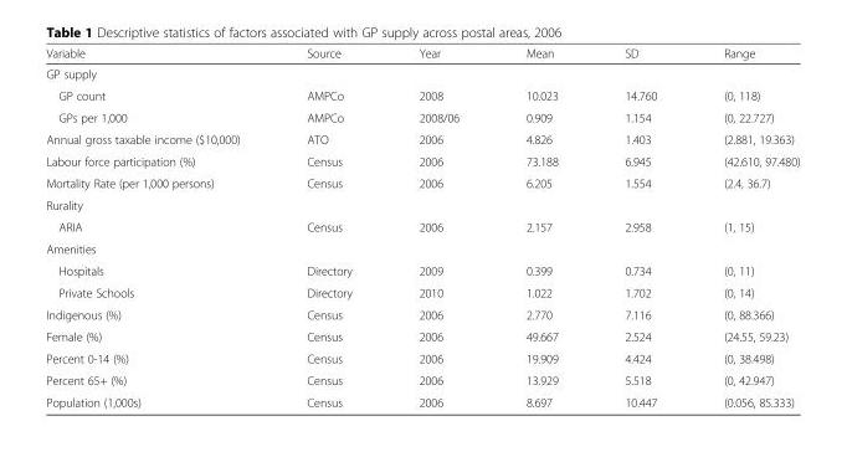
<table><thead><tr><td>Variable</td><td>Source</td><td>Year</td><td>Mean</td><td>SD</td><td>Range</td></tr></thead><tbody><tr><td colspan="6">GP supply</td></tr><tr><td>GP count</td><td>AMPCo</td><td>2008</td><td>10.023</td><td>14.760</td><td>(0, 118)</td></tr><tr><td>GPs per 1,000</td><td>AMPCo</td><td>2008/06</td><td>0.909</td><td>1.154</td><td>(0, 22.727)</td></tr><tr><td>Annual gross taxable income ($10,000)</td><td>ATO</td><td>2006</td><td>4.826</td><td>1.403</td><td>(2.881, 19.363)</td></tr><tr><td>Labour force participation (%)</td><td>Census</td><td>2006</td><td>73.188</td><td>6.945</td><td>(42.610, 97.480)</td></tr><tr><td>Mortality Rate (per 1,000 persons)</td><td>Census</td><td>2006</td><td>6.205</td><td>1.554</td><td>(2.4, 36.7)</td></tr><tr><td colspan="6">Rurality</td></tr><tr><td>ARIA</td><td>Census</td><td>2006</td><td>2.157</td><td>2.958</td><td>(1, 15)</td></tr><tr><td colspan="6">Amenities</td></tr><tr><td>Hospitals</td><td>Directory</td><td>2009</td><td>0.399</td><td>0.734</td><td>(0, 11)</td></tr><tr><td>Private Schools</td><td>Directory</td><td>2010</td><td>1.022</td><td>1.702</td><td>(0, 14)</td></tr><tr><td>Indigenous (%)</td><td>Census</td><td>2006</td><td>2.770</td><td>7.116</td><td>(0, 88.366)</td></tr><tr><td>Female (%)</td><td>Census</td><td>2006</td><td>49.667</td><td>2.524</td><td>(24.55, 59.23)</td></tr><tr><td>Percent 0-14 (%)</td><td>Census</td><td>2006</td><td>19.909</td><td>4.424</td><td>(0, 38.498)</td></tr><tr><td>Percent 65+ (%)</td><td>Census</td><td>2006</td><td>13.929</td><td>5.518</td><td>(0, 42.947)</td></tr><tr><td>Population (1,000s)</td><td>Census</td><td>2006</td><td>8.697</td><td>10.447</td><td>(0.056, 85.333)</td></tr></tbody></table>